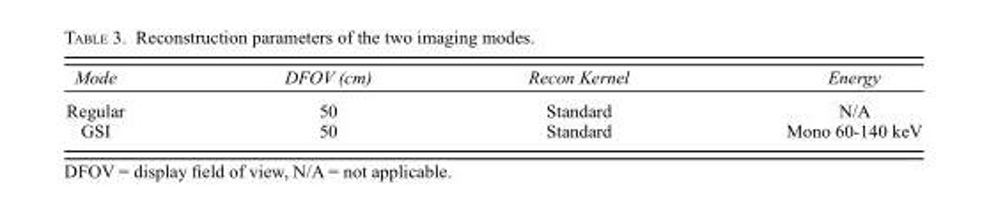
<table><thead><tr><td>Mode</td><td>DFOV (cm)</td><td>Recon Kernel</td><td>Energy</td></tr></thead><tbody><tr><td>Regular</td><td>50</td><td>Standard</td><td>N/A</td></tr><tr><td>GSI</td><td>50</td><td>Standard</td><td>Mono 60-140 keV</td></tr></tbody></table>